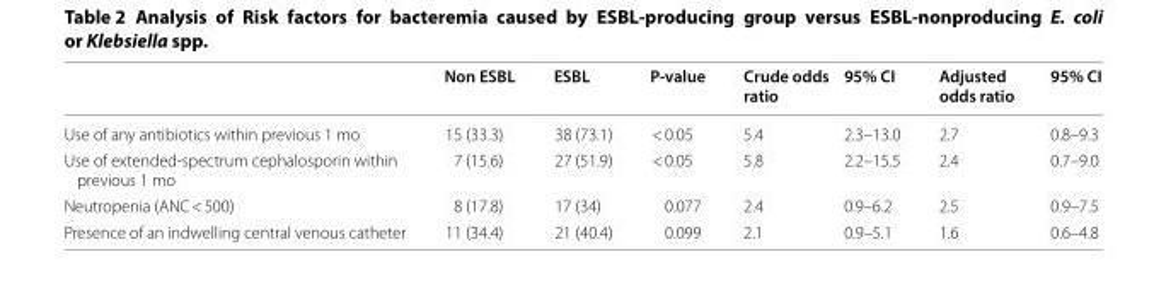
<table><thead><tr><td></td><td>Non ESBL</td><td>ESBL</td><td>P-value</td><td>Crude odds ratio</td><td>95% CI</td><td>Adjusted odds ratio</td><td>95% CI</td></tr></thead><tbody><tr><td>Use of any antibiotics within previous 1 mo</td><td>15 (33.3)</td><td>38 (73.1)</td><td>&lt; 0.05</td><td>5.4</td><td>2.3–13.0</td><td>2.7</td><td>0.8–9.3</td></tr><tr><td>Use of extended-spectrum cephalosporin within previous 1 mo</td><td>7 (15.6)</td><td>27 (51.9)</td><td>&lt; 0.05</td><td>5.8</td><td>2.2–15.5</td><td>2.4</td><td>0.7–9.0</td></tr><tr><td>Neutropenia (ANC &lt; 500)</td><td>8 (17.8)</td><td>17 (34)</td><td>0.077</td><td>2.4</td><td>0.9–6.2</td><td>2.5</td><td>0.9–7.5</td></tr><tr><td>Presence of an indwelling central venous catheter</td><td>11 (34.4)</td><td>21 (40.4)</td><td>0.099</td><td>2.1</td><td>0.9–5.1</td><td>1.6</td><td>0.6–4.8</td></tr></tbody></table>